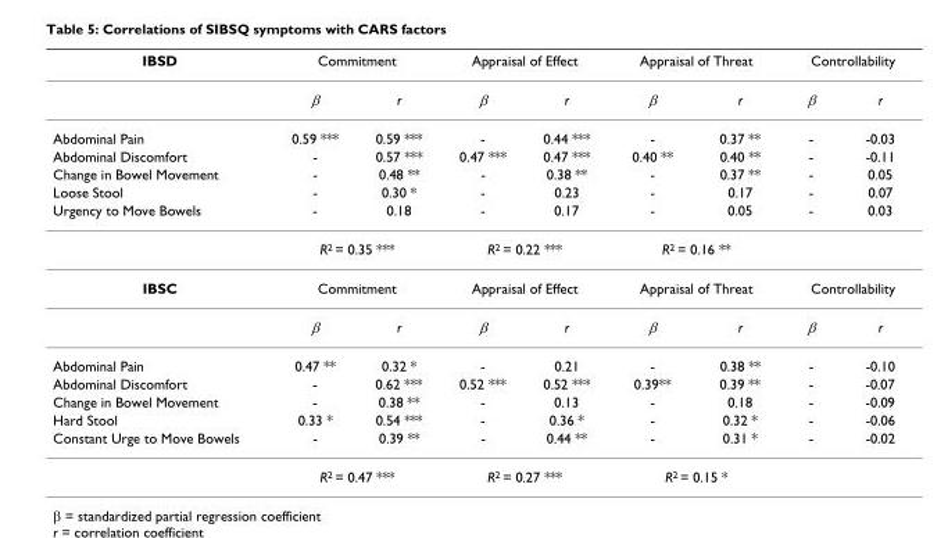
<table><thead><tr><td rowspan="2">IBSD</td><td colspan="2">Commitment</td><td colspan="2">Appraisal of Effect</td><td colspan="2">Appraisal of Threat</td><td colspan="2">Controllability</td></tr><tr><td>β</td><td>r</td><td>β</td><td>r</td><td>β</td><td>r</td><td>β</td><td>r</td></tr></thead><tbody><tr><td>Abdominal Pain</td><td>0.59 ***</td><td>0.59 ***</td><td>-</td><td>0.44 ***</td><td>-</td><td>0.37 **</td><td>-</td><td>-0.03</td></tr><tr><td>Abdominal Discomfort</td><td>-</td><td>0.57 ***</td><td>0.47 ***</td><td>0.47 ***</td><td>0.40 **</td><td>0.40 **</td><td>-</td><td>-0.11</td></tr><tr><td>Change in Bowel Movement</td><td>-</td><td>0.48 **</td><td>-</td><td>0.38 **</td><td>-</td><td>0.37 **</td><td>-</td><td>0.05</td></tr><tr><td>Loose Stool</td><td>-</td><td>0.30 *</td><td>-</td><td>0.23</td><td>-</td><td>0.17</td><td>-</td><td>0.07</td></tr><tr><td rowspan="2">Urgency to Move Bowels</td><td>-</td><td>0.18</td><td>-</td><td>0.17</td><td>-</td><td>0.05</td><td>-</td><td>0.03</td></tr><tr><td colspan="2">R<sup>2</sup> = 0.35 ***</td><td colspan="2">R<sup>2</sup> = 0.22 ***</td><td colspan="2">R<sup>2</sup> = 0.16 **</td><td></td><td></td></tr><tr><td rowspan="2">IBSC</td><td colspan="2">Commitment</td><td colspan="2">Appraisal of Effect</td><td colspan="2">Appraisal of Threat</td><td colspan="2">Controllability</td></tr><tr><td>β</td><td>r</td><td>β</td><td>r</td><td>β</td><td>r</td><td>β</td><td>r</td></tr><tr><td>Abdominal Pain</td><td>0.47 **</td><td>0.32 *</td><td>-</td><td>0.21</td><td>-</td><td>0.38 **</td><td>-</td><td>-0.10</td></tr><tr><td>Abdominal Discomfort</td><td>-</td><td>0.62 ***</td><td>0.52 ***</td><td>0.52 ***</td><td>0.39**</td><td>0.39 **</td><td>-</td><td>-0.07</td></tr><tr><td>Change in Bowel Movement</td><td>-</td><td>0.38 **</td><td>-</td><td>0.13</td><td>-</td><td>0.18</td><td>-</td><td>-0.09</td></tr><tr><td>Hard Stool</td><td>0.33 *</td><td>0.54 ***</td><td>-</td><td>0.36 *</td><td>-</td><td>0.32 *</td><td>-</td><td>-0.06</td></tr><tr><td rowspan="2">Constant Urge to Move Bowels</td><td>-</td><td>0.39 **</td><td>-</td><td>0.44 **</td><td>-</td><td>0.31 *</td><td>-</td><td>-0.02</td></tr><tr><td colspan="2">R<sup>2</sup> = 0.47 ***</td><td colspan="2">R<sup>2</sup> = 0.27 ***</td><td colspan="2">R<sup>2</sup> = 0.15 *</td><td></td><td></td></tr></tbody></table>